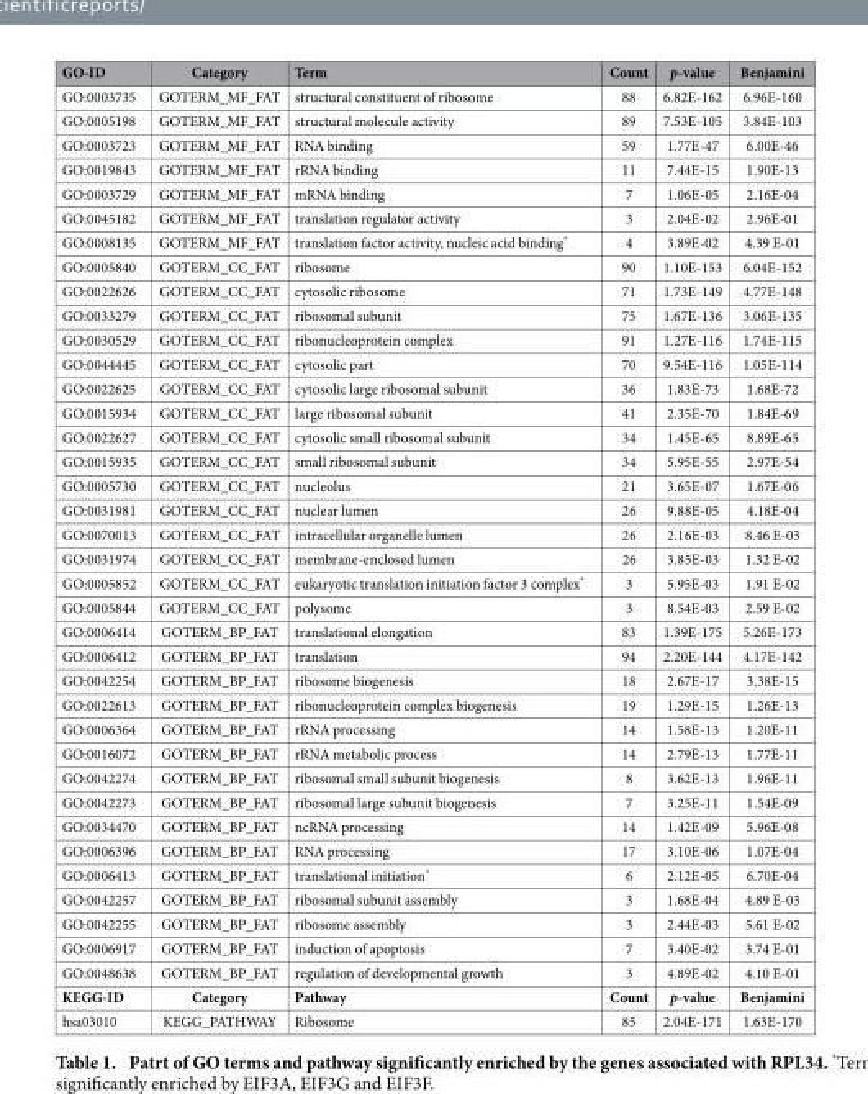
<table><thead><tr><td>GO-ID</td><td>Category</td><td>Term</td><td>Count</td><td>p-value</td><td>Benjamini</td></tr></thead><tbody><tr><td>GO:0003735</td><td>GOTERM_MF_FAT</td><td>structural constituent of ribosome</td><td>88</td><td>6.82E-162</td><td>6.96E-160</td></tr><tr><td>GO:0005198</td><td>GOTERM_MF_FAT</td><td>structural molecule activity</td><td>89</td><td>7.53E-105</td><td>3.84E-103</td></tr><tr><td>GO:0003723</td><td>GOTERM_MF_FAT</td><td>RNA binding</td><td>59</td><td>1.77E-47</td><td>6.00E-46</td></tr><tr><td>GO:0019843</td><td>GOTERM_MF_FAT</td><td>rRNA binding</td><td>11</td><td>7.44E-15</td><td>1.90E-13</td></tr><tr><td>GO:0003729</td><td>GOTERM_MF_FAT</td><td>mRNA binding</td><td>7</td><td>1.06E-05</td><td>2.16E-04</td></tr><tr><td>GO:0045182</td><td>GOTERM_MF_FAT</td><td>translation regulator activity</td><td>3</td><td>2.04E-02</td><td>2.96E-01</td></tr><tr><td>GO:0008135</td><td>GOTERM_MF_FAT</td><td>translation factor activity, nucleic acid binding*</td><td>4</td><td>3.89E-02</td><td>4.39 E-01</td></tr><tr><td>GO:0005840</td><td>GOTERM_CC_FAT</td><td>ribosome</td><td>90</td><td>1.10E-153</td><td>6.04E-152</td></tr><tr><td>GO:0022626</td><td>GOTERM_CC_FAT</td><td>cytosolic ribosome</td><td>71</td><td>1.73E-149</td><td>4.77E-148</td></tr><tr><td>GO:0033279</td><td>GOTERM_CC_FAT</td><td>ribosomal subunit</td><td>75</td><td>1.67E-136</td><td>3.06E-135</td></tr><tr><td>GO:0030529</td><td>GOTERM_CC_FAT</td><td>ribonucleoprotein complex</td><td>91</td><td>1.27E-116</td><td>1.74E-115</td></tr><tr><td>GO:0044445</td><td>GOTERM_CC_FAT</td><td>cytosolic part</td><td>70</td><td>9.54E-116</td><td>1.05E-114</td></tr><tr><td>GO:0022625</td><td>GOTERM_CC_FAT</td><td>cytosolic large ribosomal subunit</td><td>36</td><td>1.83E-73</td><td>1.68E-72</td></tr><tr><td>GO:0015934</td><td>GOTERM_CC_FAT</td><td>large ribosomal subunit</td><td>41</td><td>2.35E-70</td><td>1.84E-69</td></tr><tr><td>GO:0022627</td><td>GOTERM_CC_FAT</td><td>cytosolic small ribosomal subunit</td><td>34</td><td>1.45E-65</td><td>8.89E-65</td></tr><tr><td>GO:0015935</td><td>GOTERM_CC_FAT</td><td>small ribosomal subunit</td><td>34</td><td>5.95E-55</td><td>2.97E-54</td></tr><tr><td>GO:0005730</td><td>GOTERM_CC_FAT</td><td>nucleolus</td><td>21</td><td>3.65E-07</td><td>1.67E-06</td></tr><tr><td>GO:0031981</td><td>GOTERM_CC_FAT</td><td>nuclear lumen</td><td>26</td><td>9.88E-05</td><td>4.18E-04</td></tr><tr><td>GO:0070013</td><td>GOTERM_CC_FAT</td><td>intracellular organelle lumen</td><td>26</td><td>2.16E-03</td><td>8.46 E-03</td></tr><tr><td>GO:0031974</td><td>GOTERM_CC_FAT</td><td>membrane-enclosed lumen</td><td>26</td><td>3.85E-03</td><td>1.32 E-02</td></tr><tr><td>GO:0005852</td><td>GOTERM_CC_FAT</td><td>eukaryotic translation initiation factor 3 complex*</td><td>3</td><td>5.95E-03</td><td>1.91 E-02</td></tr><tr><td>GO:0005844</td><td>GOTERM_CC_FAT</td><td>polysome</td><td>3</td><td>8.54E-03</td><td>2.59 E-02</td></tr><tr><td>GO:0006414</td><td>GOTERM_BP_FAT</td><td>translational elongation</td><td>83</td><td>1.39E-175</td><td>5.26E-173</td></tr><tr><td>GO:0006412</td><td>GOTERM_BP_FAT</td><td>translation</td><td>94</td><td>2.20E-144</td><td>4.17E-142</td></tr><tr><td>GO:0042254</td><td>GOTERM_BP_FAT</td><td>ribosome biogenesis</td><td>18</td><td>2.67E-17</td><td>3.38E-15</td></tr><tr><td>GO:0022613</td><td>GOTERM_BP_FAT</td><td>ribonucleoprotein complex biogenesis</td><td>19</td><td>1.29E-15</td><td>1.26E-13</td></tr><tr><td>GO:0006364</td><td>GOTERM_BP_FAT</td><td>rRNA processing</td><td>14</td><td>1.58E-13</td><td>1.20E-11</td></tr><tr><td>GO:0016072</td><td>GOTERM_BP_FAT</td><td>rRNA metabolic process</td><td>14</td><td>2.79E-13</td><td>1.77E-11</td></tr><tr><td>GO:0042274</td><td>GOTERM_BP_FAT</td><td>ribosomal small subunit biogenesis</td><td>8</td><td>3.62E-13</td><td>1.96E-11</td></tr><tr><td>GO:0042273</td><td>GOTERM_BP_FAT</td><td>ribosomal large subunit biogenesis</td><td>7</td><td>3.25E-11</td><td>1.54E-09</td></tr><tr><td>GO:0034470</td><td>GOTERM_BP_FAT</td><td>ncRNA processing</td><td>14</td><td>1.42E-09</td><td>5.96E-08</td></tr><tr><td>GO:0006396</td><td>GOTERM_BP_FAT</td><td>RNA processing</td><td>17</td><td>3.10E-06</td><td>1.07E-04</td></tr><tr><td>GO:0006413</td><td>GOTERM_BP_FAT</td><td>translational initiation*</td><td>6</td><td>2.12E-05</td><td>6.70E-04</td></tr><tr><td>GO:0042257</td><td>GOTERM_BP_FAT</td><td>ribosomal subunit assembly</td><td>3</td><td>1.68E-04</td><td>4.89 E-03</td></tr><tr><td>GO:0042255</td><td>GOTERM_BP_FAT</td><td>ribosome assembly</td><td>3</td><td>2.44E-03</td><td>5.61 E-02</td></tr><tr><td>GO:0006917</td><td>GOTERM_BP_FAT</td><td>induction of apoptosis</td><td>7</td><td>3.40E-02</td><td>3.74 E-01</td></tr><tr><td>GO:0048638</td><td>GOTERM_BP_FAT</td><td>regulation of developmental growth</td><td>3</td><td>4.89E-02</td><td>4.10 E-01</td></tr><tr><td>KEGG-ID</td><td>Category</td><td>Pathway</td><td>Count</td><td>p-value</td><td>Benjamini</td></tr><tr><td>hsa03010</td><td>KEGG_PATHWAY</td><td>Ribosome</td><td>85</td><td>2.04E-171</td><td>1.63E-170</td></tr></tbody></table>